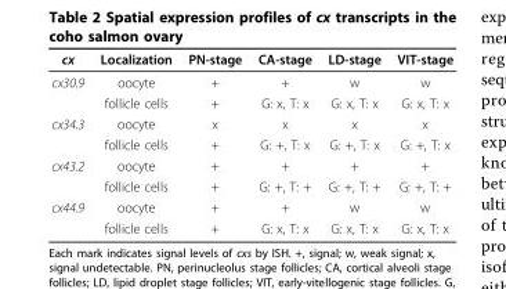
<table><thead><tr><td>cx</td><td>Localization</td><td>PN-stage</td><td>CA-stage</td><td>LD-stage</td><td>VIT-stage</td></tr></thead><tbody><tr><td rowspan="2">cx30.9</td><td>oocyte</td><td>+</td><td>+</td><td>w</td><td>w</td></tr><tr><td>follicle cells</td><td>+</td><td>G: x, T: x</td><td>G: x, T: x</td><td>G: x, T: x</td></tr><tr><td rowspan="2">cx34.3</td><td>oocyte</td><td>x</td><td>x</td><td>x</td><td>x</td></tr><tr><td>follicle cells</td><td>+</td><td>G: +, T: x</td><td>G: +, T: x</td><td>G: +, T: x</td></tr><tr><td rowspan="2">cx43.2</td><td>oocyte</td><td>+</td><td>+</td><td>+</td><td>+</td></tr><tr><td>follicle cells</td><td>+</td><td>G: +, T: +</td><td>G: +, T: +</td><td>G: +, T: +</td></tr><tr><td rowspan="2">cx44.9</td><td>oocyte</td><td>+</td><td>+</td><td>w</td><td>w</td></tr><tr><td>follicle cells</td><td>+</td><td>G: x, T: x</td><td>G: x, T: x</td><td>G: x, T: x</td></tr></tbody></table>